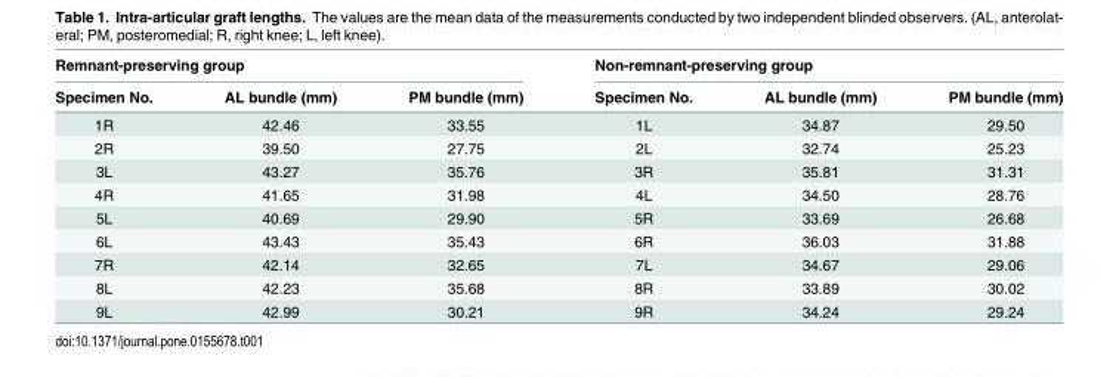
<table><thead><tr><td colspan="3">Remnant-preserving group</td><td colspan="3">Non-remnant-preserving group</td></tr><tr><td>Specimen No.</td><td>AL bundle (mm)</td><td>PM bundle (mm)</td><td>Specimen No.</td><td>AL bundle (mm)</td><td>PM bundle (mm)</td></tr></thead><tbody><tr><td>1R</td><td>42.46</td><td>33.55</td><td>1L</td><td>34.87</td><td>29.50</td></tr><tr><td>2R</td><td>39.50</td><td>27.75</td><td>2L</td><td>32.74</td><td>25.23</td></tr><tr><td>3L</td><td>43.27</td><td>35.76</td><td>3R</td><td>35.81</td><td>31.31</td></tr><tr><td>4R</td><td>41.65</td><td>31.98</td><td>4L</td><td>34.50</td><td>28.76</td></tr><tr><td>5L</td><td>40.69</td><td>29.90</td><td>5R</td><td>33.69</td><td>26.68</td></tr><tr><td>6L</td><td>43.43</td><td>35.43</td><td>6R</td><td>36.03</td><td>31.88</td></tr><tr><td>7R</td><td>42.14</td><td>32.65</td><td>7L</td><td>34.67</td><td>29.06</td></tr><tr><td>8L</td><td>42.23</td><td>35.68</td><td>8R</td><td>33.89</td><td>30.02</td></tr><tr><td>9L</td><td>42.99</td><td>30.21</td><td>9R</td><td>34.24</td><td>29.24</td></tr></tbody></table>